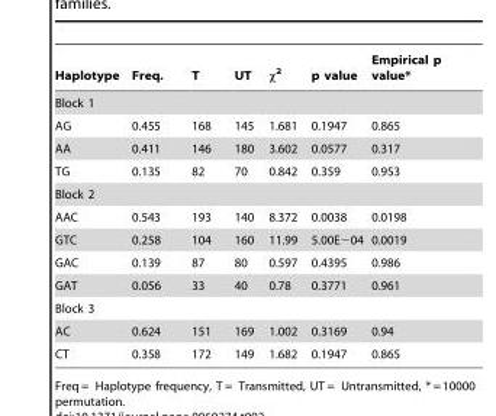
<table><thead><tr><td>Haplotype</td><td>Freq.</td><td>T</td><td>UT</td><td>x2</td><td>p value</td><td>Empirical p value*</td></tr></thead><tbody><tr><td colspan="7">Block 1</td></tr><tr><td>AG</td><td>0.455</td><td>168</td><td>145</td><td>1.681</td><td>0.1947</td><td>0.865</td></tr><tr><td>AA</td><td>0.411</td><td>146</td><td>180</td><td>3.602</td><td>0.0577</td><td>0.317</td></tr><tr><td>TG</td><td>0.135</td><td>82</td><td>70</td><td>0.842</td><td>0.359</td><td>0.953</td></tr><tr><td colspan="7">Block 2</td></tr><tr><td>AAC</td><td>0.543</td><td>193</td><td>140</td><td>8.372</td><td>0.0038</td><td>0.0198</td></tr><tr><td>GTC</td><td>0.258</td><td>104</td><td>160</td><td>11.99</td><td>5.00E−04</td><td>0.0019</td></tr><tr><td>GAC</td><td>0.139</td><td>87</td><td>80</td><td>0.597</td><td>0.4395</td><td>0.986</td></tr><tr><td>GAT</td><td>0.056</td><td>33</td><td>40</td><td>0.78</td><td>0.3771</td><td>0.961</td></tr><tr><td colspan="7">Block 3</td></tr><tr><td>AC</td><td>0.624</td><td>151</td><td>169</td><td>1.002</td><td>0.3169</td><td>0.94</td></tr><tr><td>CT</td><td>0.358</td><td>172</td><td>149</td><td>1.682</td><td>0.1947</td><td>0.865</td></tr></tbody></table>